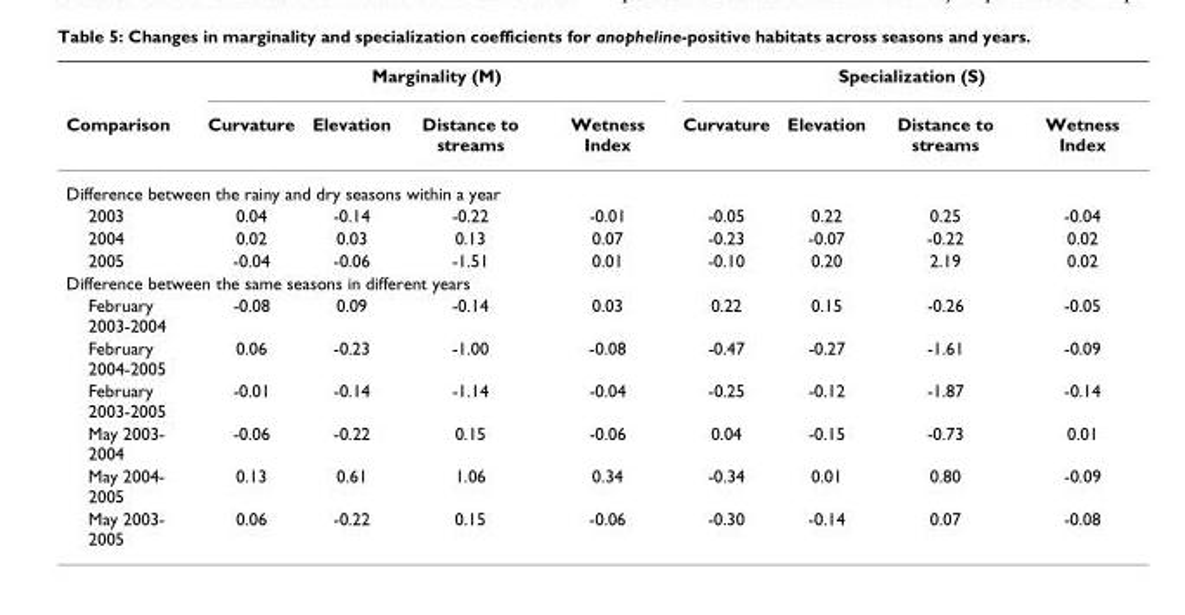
<table><thead><tr><td rowspan="2">Comparison</td><td colspan="4">Marginality (M)</td><td colspan="4">Specialization (S)</td></tr><tr><td>Curvature</td><td>Elevation</td><td>Distance to streams</td><td>Wetness Index</td><td>Curvature</td><td>Elevation</td><td>Distance to streams</td><td>Wetness Index</td></tr></thead><tbody><tr><td colspan="9">Difference between the rainy and dry seasons within a year</td></tr><tr><td>2003</td><td>0.04</td><td>-0.14</td><td>-0.22</td><td>-0.01</td><td>-0.05</td><td>0.22</td><td>0.25</td><td>-0.04</td></tr><tr><td>2004</td><td>0.02</td><td>0.03</td><td>0.13</td><td>0.07</td><td>-0.23</td><td>-0.07</td><td>-0.22</td><td>0.02</td></tr><tr><td>2005</td><td>-0.04</td><td>-0.06</td><td>-1.51</td><td>0.01</td><td>-0.10</td><td>0.20</td><td>2.19</td><td>0.02</td></tr><tr><td colspan="9">Difference between the same seasons in different years</td></tr><tr><td>February 2003-2004</td><td>-0.08</td><td>0.09</td><td>-0.14</td><td>0.03</td><td>0.22</td><td>0.15</td><td>-0.26</td><td>-0.05</td></tr><tr><td>February 2004-2005</td><td>0.06</td><td>-0.23</td><td>-1.00</td><td>-0.08</td><td>-0.47</td><td>-0.27</td><td>-1.61</td><td>-0.09</td></tr><tr><td>February 2003-2005</td><td>-0.01</td><td>-0.14</td><td>-1.14</td><td>-0.04</td><td>-0.25</td><td>-0.12</td><td>-1.87</td><td>-0.14</td></tr><tr><td>May 2003- 2004</td><td>-0.06</td><td>-0.22</td><td>0.15</td><td>-0.06</td><td>0.04</td><td>-0.15</td><td>-0.73</td><td>0.01</td></tr><tr><td>May 2004- 2005</td><td>0.13</td><td>0.61</td><td>1.06</td><td>0.34</td><td>-0.34</td><td>0.01</td><td>0.80</td><td>-0.09</td></tr><tr><td>May 2003- 2005</td><td>0.06</td><td>-0.22</td><td>0.15</td><td>-0.06</td><td>-0.30</td><td>-0.14</td><td>0.07</td><td>-0.08</td></tr></tbody></table>